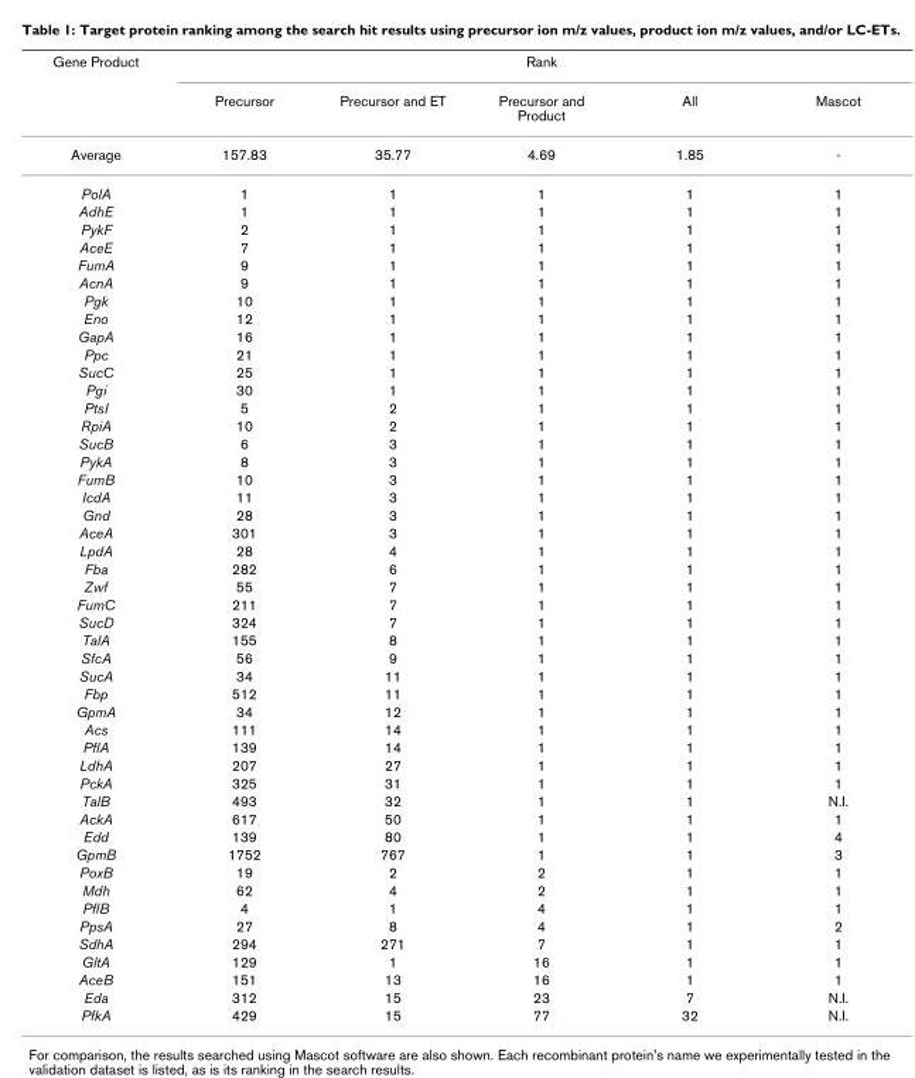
<table><thead><tr><td rowspan="2">Gene Product</td><td colspan="5">Rank</td></tr><tr><td>Precursor</td><td>Precursor and ET</td><td>Precursor and Product</td><td>All</td><td>Mascot</td></tr></thead><tbody><tr><td>Average</td><td>157.83</td><td>35.77</td><td>4.69</td><td>1.85</td><td>-</td></tr><tr><td>PolA</td><td>1</td><td>1</td><td>1</td><td>1</td><td>1</td></tr><tr><td>AdhE</td><td>1</td><td>1</td><td>1</td><td>1</td><td>1</td></tr><tr><td>PykF</td><td>2</td><td>1</td><td>1</td><td>1</td><td>1</td></tr><tr><td>AceE</td><td>7</td><td>1</td><td>1</td><td>1</td><td>1</td></tr><tr><td>FumA</td><td>9</td><td>1</td><td>1</td><td>1</td><td>1</td></tr><tr><td>AcnA</td><td>9</td><td>1</td><td>1</td><td>1</td><td>1</td></tr><tr><td>Pgk</td><td>10</td><td>1</td><td>1</td><td>1</td><td>1</td></tr><tr><td>Eno</td><td>12</td><td>1</td><td>1</td><td>1</td><td>1</td></tr><tr><td>GapA</td><td>16</td><td>1</td><td>1</td><td>1</td><td>1</td></tr><tr><td>Ppc</td><td>21</td><td>1</td><td>1</td><td>1</td><td>1</td></tr><tr><td>SucC</td><td>25</td><td>1</td><td>1</td><td>1</td><td>1</td></tr><tr><td>Pgi</td><td>30</td><td>1</td><td>1</td><td>1</td><td>1</td></tr><tr><td>PtsI</td><td>5</td><td>2</td><td>1</td><td>1</td><td>1</td></tr><tr><td>RpiA</td><td>10</td><td>2</td><td>1</td><td>1</td><td>1</td></tr><tr><td>SucB</td><td>6</td><td>3</td><td>1</td><td>1</td><td>1</td></tr><tr><td>PykA</td><td>8</td><td>3</td><td>1</td><td>1</td><td>1</td></tr><tr><td>FumB</td><td>10</td><td>3</td><td>1</td><td>1</td><td>1</td></tr><tr><td>IcdA</td><td>11</td><td>3</td><td>1</td><td>1</td><td>1</td></tr><tr><td>Gnd</td><td>28</td><td>3</td><td>1</td><td>1</td><td>1</td></tr><tr><td>AceA</td><td>301</td><td>3</td><td>1</td><td>1</td><td>1</td></tr><tr><td>LpdA</td><td>28</td><td>4</td><td>1</td><td>1</td><td>1</td></tr><tr><td>Fba</td><td>282</td><td>6</td><td>1</td><td>1</td><td>1</td></tr><tr><td>Zwf</td><td>55</td><td>7</td><td>1</td><td>1</td><td>1</td></tr><tr><td>FumC</td><td>211</td><td>7</td><td>1</td><td>1</td><td>1</td></tr><tr><td>SucD</td><td>324</td><td>7</td><td>1</td><td>1</td><td>1</td></tr><tr><td>TalA</td><td>155</td><td>8</td><td>1</td><td>1</td><td>1</td></tr><tr><td>SfcA</td><td>56</td><td>9</td><td>1</td><td>1</td><td>1</td></tr><tr><td>SucA</td><td>34</td><td>11</td><td>1</td><td>1</td><td>1</td></tr><tr><td>Fbp</td><td>512</td><td>11</td><td>1</td><td>1</td><td>1</td></tr><tr><td>GpmA</td><td>34</td><td>12</td><td>1</td><td>1</td><td>1</td></tr><tr><td>Acs</td><td>111</td><td>14</td><td>1</td><td>1</td><td>1</td></tr><tr><td>PflA</td><td>139</td><td>14</td><td>1</td><td>1</td><td>1</td></tr><tr><td>LdhA</td><td>207</td><td>27</td><td>1</td><td>1</td><td>1</td></tr><tr><td>PckA</td><td>325</td><td>31</td><td>1</td><td>1</td><td>1</td></tr><tr><td>TalB</td><td>493</td><td>32</td><td>1</td><td>1</td><td>N.I.</td></tr><tr><td>AckA</td><td>617</td><td>50</td><td>1</td><td>1</td><td>1</td></tr><tr><td>Edd</td><td>139</td><td>80</td><td>1</td><td>1</td><td>4</td></tr><tr><td>GpmB</td><td>1752</td><td>767</td><td>1</td><td>1</td><td>3</td></tr><tr><td>PoxB</td><td>19</td><td>2</td><td>2</td><td>1</td><td>1</td></tr><tr><td>Mdh</td><td>62</td><td>4</td><td>2</td><td>1</td><td>1</td></tr><tr><td>PflB</td><td>4</td><td>1</td><td>4</td><td>1</td><td>1</td></tr><tr><td>PpsA</td><td>27</td><td>8</td><td>4</td><td>1</td><td>2</td></tr><tr><td>SdhA</td><td>294</td><td>271</td><td>7</td><td>1</td><td>1</td></tr><tr><td>GltA</td><td>129</td><td>1</td><td>16</td><td>1</td><td>1</td></tr><tr><td>AceB</td><td>151</td><td>13</td><td>16</td><td>1</td><td>1</td></tr><tr><td>Eda</td><td>312</td><td>15</td><td>23</td><td>7</td><td>N.I.</td></tr><tr><td>PfkA</td><td>429</td><td>15</td><td>77</td><td>32</td><td>N.I.</td></tr></tbody></table>